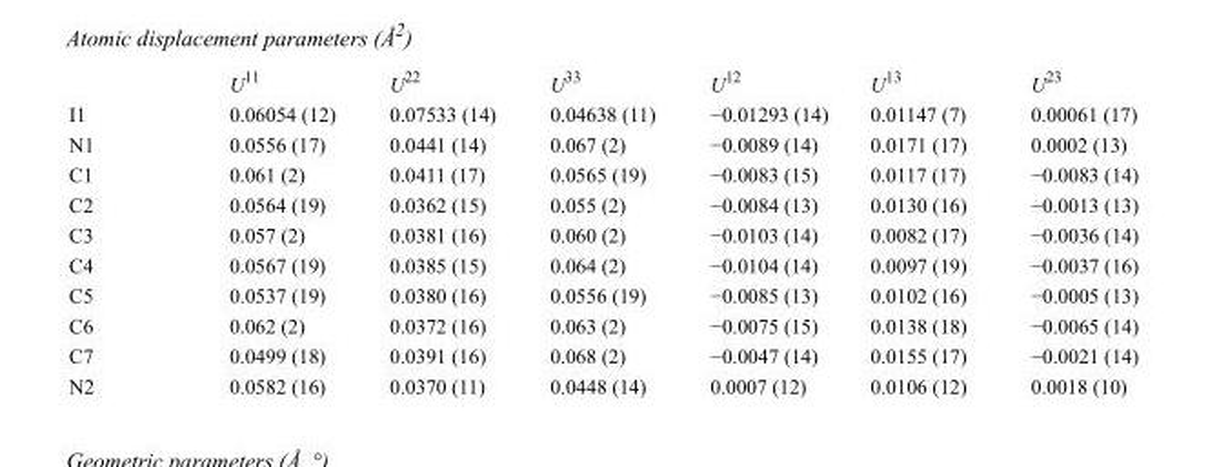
<table><thead><tr><td></td><td>U<sup>11</sup></td><td>U<sup>22</sup></td><td>U<sup>33</sup></td><td>U<sup>12</sup></td><td>U<sup>13</sup></td><td>U<sup>23</sup></td></tr></thead><tbody><tr><td>I1</td><td>0.06054 (12)</td><td>0.07533 (14)</td><td>0.04638 (11)</td><td>−0.01293 (14)</td><td>0.01147 (7)</td><td>0.00061 (17)</td></tr><tr><td>N1</td><td>0.0556 (17)</td><td>0.0441 (14)</td><td>0.067 (2)</td><td>−0.0089 (14)</td><td>0.0171 (17)</td><td>0.0002 (13)</td></tr><tr><td>C1</td><td>0.061 (2)</td><td>0.0411 (17)</td><td>0.0565 (19)</td><td>−0.0083 (15)</td><td>0.0117 (17)</td><td>−0.0083 (14)</td></tr><tr><td>C2</td><td>0.0564 (19)</td><td>0.0362 (15)</td><td>0.055 (2)</td><td>−0.0084 (13)</td><td>0.0130 (16)</td><td>−0.0013 (13)</td></tr><tr><td>C3</td><td>0.057 (2)</td><td>0.0381 (16)</td><td>0.060 (2)</td><td>−0.0103 (14)</td><td>0.0082 (17)</td><td>−0.0036 (14)</td></tr><tr><td>C4</td><td>0.0567 (19)</td><td>0.0385 (15)</td><td>0.064 (2)</td><td>−0.0104 (14)</td><td>0.0097 (19)</td><td>−0.0037 (16)</td></tr><tr><td>C5</td><td>0.0537 (19)</td><td>0.0380 (16)</td><td>0.0556 (19)</td><td>−0.0085 (13)</td><td>0.0102 (16)</td><td>−0.0005 (13)</td></tr><tr><td>C6</td><td>0.062 (2)</td><td>0.0372 (16)</td><td>0.063 (2)</td><td>−0.0075 (15)</td><td>0.0138 (18)</td><td>−0.0065 (14)</td></tr><tr><td>C7</td><td>0.0499 (18)</td><td>0.0391 (16)</td><td>0.068 (2)</td><td>−0.0047 (14)</td><td>0.0155 (17)</td><td>−0.0021 (14)</td></tr><tr><td>N2</td><td>0.0582 (16)</td><td>0.0370 (11)</td><td>0.0448 (14)</td><td>0.0007 (12)</td><td>0.0106 (12)</td><td>0.0018 (10)</td></tr></tbody></table>